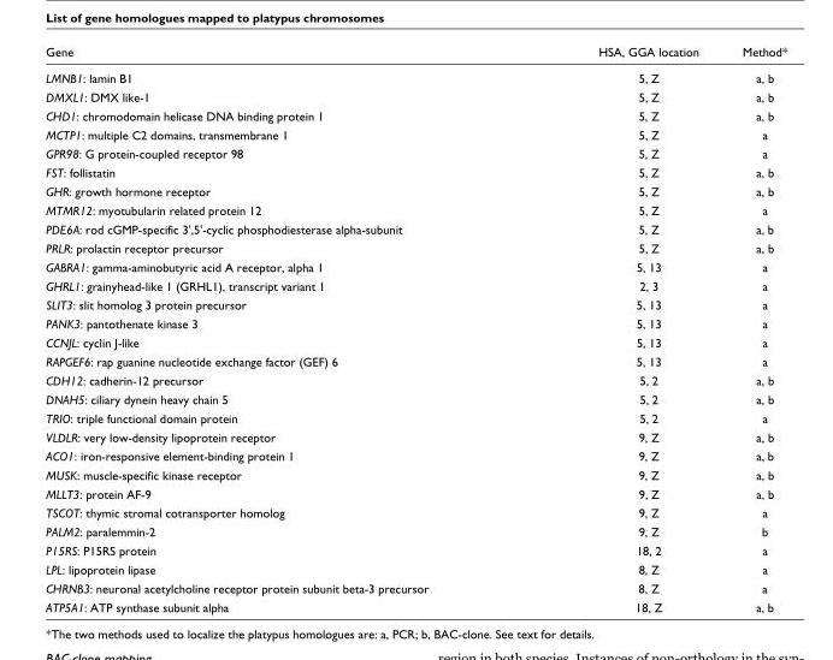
<table><thead><tr><td>Gene</td><td>HSA, GGA location</td><td>Method*</td></tr></thead><tbody><tr><td>LMNB1: lamin B1</td><td>5, Z</td><td>a, b</td></tr><tr><td>DMXL1: DMX like-1</td><td>5, Z</td><td>a, b</td></tr><tr><td>CHD1: chromodomain helicase DNA binding protein 1</td><td>5, Z</td><td>a, b</td></tr><tr><td>MCTP1: multiple C2 domains, transmembrane 1</td><td>5, Z</td><td>a</td></tr><tr><td>GPR98: G protein-coupled receptor 98</td><td>5, Z</td><td>a</td></tr><tr><td>FST: follistatin</td><td>5, Z</td><td>a, b</td></tr><tr><td>GHR: growth hormone receptor</td><td>5, Z</td><td>a, b</td></tr><tr><td>MTMR12: myotubularin related protein 12</td><td>5, Z</td><td>a</td></tr><tr><td>PDE6A: rod cGMP-specific 3&#x27;,5&#x27;-cyclic phosphodiesterase alpha-subunit</td><td>5, Z</td><td>a, b</td></tr><tr><td>PRLR: prolactin receptor precursor</td><td>5, Z</td><td>a, b</td></tr><tr><td>GABRA1: gamma-aminobutyric acid A receptor, alpha 1</td><td>5, 13</td><td>a</td></tr><tr><td>GHRL1: grainyhead-like 1 (GRHL1), transcript variant 1</td><td>2, 3</td><td>a</td></tr><tr><td>SLIT3: slit homolog 3 protein precursor</td><td>5, 13</td><td>a</td></tr><tr><td>PANK3: pantothenate kinase 3</td><td>5, 13</td><td>a</td></tr><tr><td>CCNJL: cyclin J-like</td><td>5, 13</td><td>a</td></tr><tr><td>RAPGEF6: rap guanine nucleotide exchange factor (GEF) 6</td><td>5, 13</td><td>a</td></tr><tr><td>CDH12: cadherin-12 precursor</td><td>5, 2</td><td>a, b</td></tr><tr><td>DNAH5: ciliary dynein heavy chain 5</td><td>5, 2</td><td>a, b</td></tr><tr><td>TRIO: triple functional domain protein</td><td>5, 2</td><td>a</td></tr><tr><td>VLDLR: very low-density lipoprotein receptor</td><td>9, Z</td><td>a, b</td></tr><tr><td>ACO1: iron-responsive element-binding protein 1</td><td>9, Z</td><td>a, b</td></tr><tr><td>MUSK: muscle-specific kinase receptor</td><td>9, Z</td><td>a, b</td></tr><tr><td>MLLT3: protein AF-9</td><td>9, Z</td><td>a, b</td></tr><tr><td>TSCOT: thymic stromal cotransporter homolog</td><td>9, Z</td><td>a</td></tr><tr><td>PALM2: paralemmin-2</td><td>9, Z</td><td>b</td></tr><tr><td>P15RS: P15RS protein</td><td>18, 2</td><td>a</td></tr><tr><td>LPL: lipoprotein lipase</td><td>8, Z</td><td>a</td></tr><tr><td>CHRNB3: neuronal acetylcholine receptor protein subunit beta-3 precursor</td><td>8, Z</td><td>a</td></tr><tr><td>ATP5A1: ATP synthase subunit alpha</td><td>18, Z</td><td>a, b</td></tr></tbody></table>